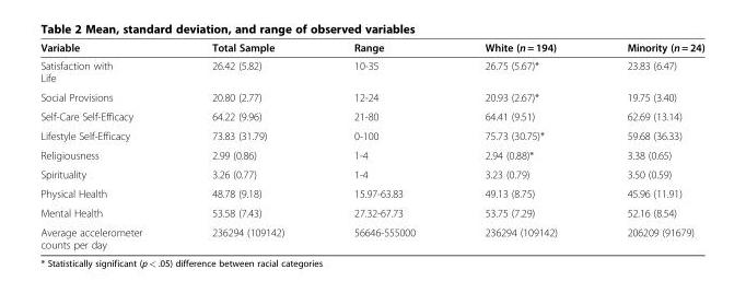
<table><thead><tr><td>Variable</td><td>Total Sample</td><td>Range</td><td>White (n = 194)</td><td>Minority (n = 24)</td></tr></thead><tbody><tr><td>Satisfaction with Life</td><td>26.42 (5.82)</td><td>10-35</td><td>26.75 (5.67)*</td><td>23.83 (6.47)</td></tr><tr><td>Social Provisions</td><td>20.80 (2.77)</td><td>12-24</td><td>20.93 (2.67)*</td><td>19.75 (3.40)</td></tr><tr><td>Self-Care Self-Efficacy</td><td>64.22 (9.96)</td><td>21-80</td><td>64.41 (9.51)</td><td>62.69 (13.14)</td></tr><tr><td>Lifestyle Self-Efficacy</td><td>73.83 (31.79)</td><td>0-100</td><td>75.73 (30.75)*</td><td>59.68 (36.33)</td></tr><tr><td>Religiousness</td><td>2.99 (0.86)</td><td>1-4</td><td>2.94 (0.88)*</td><td>3.38 (0.65)</td></tr><tr><td>Spirituality</td><td>3.26 (0.77)</td><td>1-4</td><td>3.23 (0.79)</td><td>3.50 (0.59)</td></tr><tr><td>Physical Health</td><td>48.78 (9.18)</td><td>15.97-63.83</td><td>49.13 (8.75)</td><td>45.96 (11.91)</td></tr><tr><td>Mental Health</td><td>53.58 (7.43)</td><td>27.32-67.73</td><td>53.75 (7.29)</td><td>52.16 (8.54)</td></tr><tr><td>Average accelerometer counts per day</td><td>236294 (109142)</td><td>56646-555000</td><td>236294 (109142)</td><td>206209 (91679)</td></tr></tbody></table>